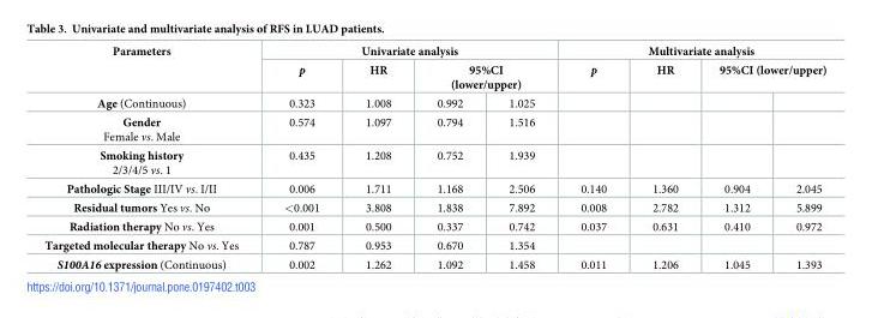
<table><thead><tr><td rowspan="3">Parameters Age (Continuous)</td><td colspan="4">Univariate analysis</td><td colspan="4">Multivariate analysis</td></tr><tr><td rowspan="2">p 0.323</td><td rowspan="2">HR 1.008</td><td colspan="2">95%CI (lower/upper)</td><td rowspan="2">p</td><td rowspan="2">HR</td><td colspan="2">95%CI (lower/upper)</td></tr><tr><td>0.992</td><td>1.025</td><td></td><td></td></tr></thead><tbody><tr><td>Gender Female vs. Male</td><td>0.574</td><td>1.097</td><td>0.794</td><td>1.516</td><td></td><td></td><td></td><td></td></tr><tr><td>Smoking history 2/3/4/5 vs. 1</td><td>0.435</td><td>1.208</td><td>0.752</td><td>1.939</td><td></td><td></td><td></td><td></td></tr><tr><td>Pathologic Stage III/IV vs. I/II</td><td>0.006</td><td>1.711</td><td>1.168</td><td>2.506</td><td>0.140</td><td>1.360</td><td>0.904</td><td>2.045</td></tr><tr><td>Residual tumors Yes vs. No</td><td>&lt;0.001</td><td>3.808</td><td>1.838</td><td>7.892</td><td>0.008</td><td>2.782</td><td>1.312</td><td>5.899</td></tr><tr><td>Radiation therapy No vs. Yes</td><td>0.001</td><td>0.500</td><td>0.337</td><td>0.742</td><td>0.037</td><td>0.631</td><td>0.410</td><td>0.972</td></tr><tr><td>Targeted molecular therapy No vs. Yes</td><td>0.787</td><td>0.953</td><td>0.670</td><td>1.354</td><td></td><td></td><td></td><td></td></tr><tr><td>S100A16 expression (Continuous)</td><td>0.002</td><td>1.262</td><td>1.092</td><td>1.458</td><td>0.011</td><td>1.206</td><td>1.045</td><td>1.393</td></tr></tbody></table>